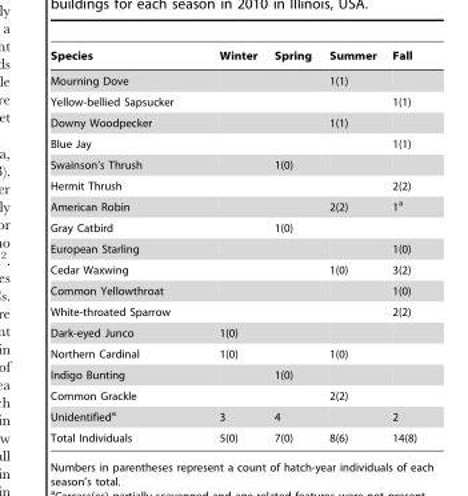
<table><thead><tr><td>Species</td><td>Winter</td><td>Spring</td><td>Summer</td><td>Fall</td></tr></thead><tbody><tr><td>Mourning Dove</td><td></td><td></td><td>1(1)</td><td></td></tr><tr><td>Yellow-bellied Sapsucker</td><td></td><td></td><td></td><td>1(1)</td></tr><tr><td>Downy Woodpecker</td><td></td><td></td><td>1(1)</td><td></td></tr><tr><td>Blue Jay</td><td></td><td></td><td></td><td>1(1)</td></tr><tr><td>Swainson’s Thrush</td><td></td><td>1(0)</td><td></td><td></td></tr><tr><td>Hermit Thrush</td><td></td><td></td><td></td><td>2(2)</td></tr><tr><td>American Robin</td><td></td><td></td><td>2(2)</td><td>1<sup>a</sup></td></tr><tr><td>Gray Catbird</td><td></td><td>1(0)</td><td></td><td></td></tr><tr><td>European Starling</td><td></td><td></td><td></td><td>1(0)</td></tr><tr><td>Cedar Waxwing</td><td></td><td></td><td>1(0)</td><td>3(2)</td></tr><tr><td>Common Yellowthroat</td><td></td><td></td><td></td><td>1(0)</td></tr><tr><td>White-throated Sparrow</td><td></td><td></td><td></td><td>2(2)</td></tr><tr><td>Dark-eyed Junco</td><td>1(0)</td><td></td><td></td><td></td></tr><tr><td>Northern Cardinal</td><td>1(0)</td><td></td><td>1(0)</td><td></td></tr><tr><td>Indigo Bunting</td><td></td><td>1(0)</td><td></td><td></td></tr><tr><td>Common Grackle</td><td></td><td></td><td>2(2)</td><td></td></tr><tr><td>Unidentified<sup>a</sup></td><td>3</td><td>4</td><td></td><td>2</td></tr><tr><td>Total Individuals</td><td>5(0)</td><td>7(0)</td><td>8(6)</td><td>14(8)</td></tr></tbody></table>